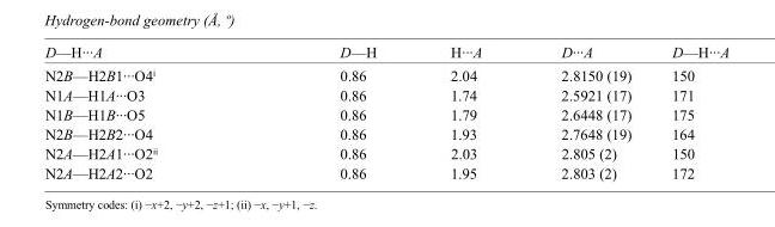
<table><tbody><tr><td>D—H···A</td><td>D—H</td><td>H···A</td><td>D···A</td><td>D—H···A</td></tr><tr><td>N2B—H2B1···O4<sup>i</sup></td><td>0.86</td><td>2.04</td><td>2.8150 (19)</td><td>150</td></tr><tr><td>N1A—H1A···O3</td><td>0.86</td><td>1.74</td><td>2.5921 (17)</td><td>171</td></tr><tr><td>N1B—H1B···O5</td><td>0.86</td><td>1.79</td><td>2.6448 (17)</td><td>175</td></tr><tr><td>N2B—H2B2···O4</td><td>0.86</td><td>1.93</td><td>2.7648 (19)</td><td>164</td></tr><tr><td>N2A—H2A1···O2<sup>ii</sup></td><td>0.86</td><td>2.03</td><td>2.805 (2)</td><td>150</td></tr><tr><td>N2A—H2A2···O2</td><td>0.86</td><td>1.95</td><td>2.803 (2)</td><td>172</td></tr></tbody></table>